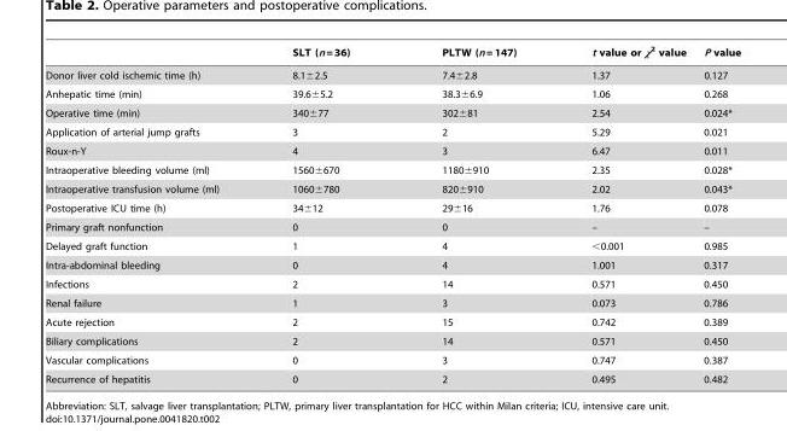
<table><thead><tr><td></td><td>SLT (n = 36)</td><td>PLTW (n = 147)</td><td>t value or χ2 value</td><td>P value</td></tr></thead><tbody><tr><td>Donor liver cold ischemic time (h)</td><td>8.1±2.5</td><td>7.4±2.8</td><td>1.37</td><td>0.127</td></tr><tr><td>Anhepatic time (min)</td><td>39.6±5.2</td><td>38.3±6.9</td><td>1.06</td><td>0.268</td></tr><tr><td>Operative time (min)</td><td>340±77</td><td>302±81</td><td>2.54</td><td>0.024*</td></tr><tr><td>Application of arterial jump grafts</td><td>3</td><td>2</td><td>5.29</td><td>0.021</td></tr><tr><td>Roux-n-Y</td><td>4</td><td>3</td><td>6.47</td><td>0.011</td></tr><tr><td>Intraoperative bleeding volume (ml)</td><td>1560±670</td><td>1180±910</td><td>2.35</td><td>0.028*</td></tr><tr><td>Intraoperative transfusion volume (ml)</td><td>1060±780</td><td>820±910</td><td>2.02</td><td>0.043*</td></tr><tr><td>Postoperative ICU time (h)</td><td>34±12</td><td>29±16</td><td>1.76</td><td>0.078</td></tr><tr><td>Primary graft nonfunction</td><td>0</td><td>0</td><td>–</td><td>–</td></tr><tr><td>Delayed graft function</td><td>1</td><td>4</td><td>&lt;0.001</td><td>0.985</td></tr><tr><td>Intra-abdominal bleeding</td><td>0</td><td>4</td><td>1.001</td><td>0.317</td></tr><tr><td>Infections</td><td>2</td><td>14</td><td>0.571</td><td>0.450</td></tr><tr><td>Renal failure</td><td>1</td><td>3</td><td>0.073</td><td>0.786</td></tr><tr><td>Acute rejection</td><td>2</td><td>15</td><td>0.742</td><td>0.389</td></tr><tr><td>Biliary complications</td><td>2</td><td>14</td><td>0.571</td><td>0.450</td></tr><tr><td>Vascular complications</td><td>0</td><td>3</td><td>0.747</td><td>0.387</td></tr><tr><td>Recurrence of hepatitis</td><td>0</td><td>2</td><td>0.495</td><td>0.482</td></tr></tbody></table>